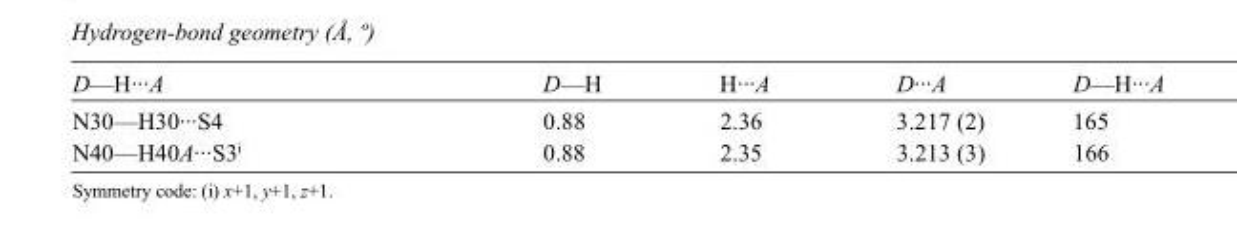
<table><tbody><tr><td>D—H···A</td><td>D—H</td><td>H···A</td><td>D···A</td><td>D—H···A</td></tr><tr><td>N30—H30···S4</td><td>0.88</td><td>2.36</td><td>3.217 (2)</td><td>165</td></tr><tr><td>N40—H40A···S3<sup>i</sup></td><td>0.88</td><td>2.35</td><td>3.213 (3)</td><td>166</td></tr></tbody></table>